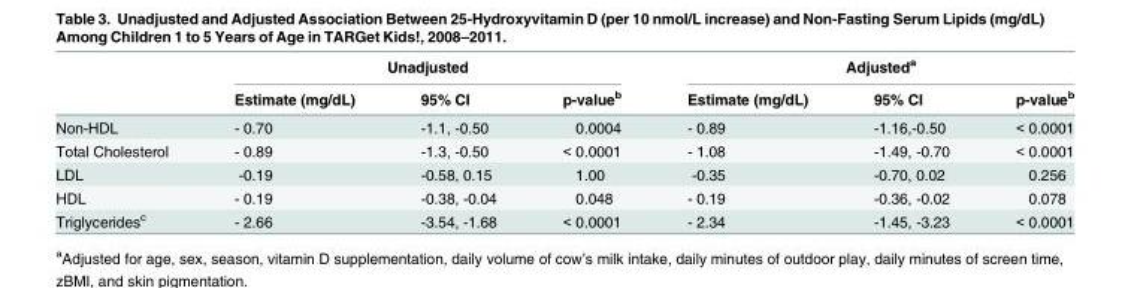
<table><thead><tr><td rowspan="2"></td><td colspan="3">Unadjusted</td><td colspan="3">Adjusted<sup>a</sup></td></tr><tr><td>Estimate (mg/dL)</td><td>95% CI</td><td>p-value<sup>b</sup></td><td>Estimate (mg/dL)</td><td>95% CI</td><td>p-value<sup>b</sup></td></tr></thead><tbody><tr><td>Non-HDL</td><td>- 0.70</td><td>-1.1, -0.50</td><td>0.0004</td><td>- 0.89</td><td>-1.16,-0.50</td><td>&lt; 0.0001</td></tr><tr><td>Total Cholesterol</td><td>- 0.89</td><td>-1.3, -0.50</td><td>&lt; 0.0001</td><td>- 1.08</td><td>-1.49, -0.70</td><td>&lt; 0.0001</td></tr><tr><td>LDL</td><td>-0.19</td><td>-0.58, 0.15</td><td>1.00</td><td>-0.35</td><td>-0.70, 0.02</td><td>0.256</td></tr><tr><td>HDL</td><td>- 0.19</td><td>-0.38, -0.04</td><td>0.048</td><td>- 0.19</td><td>-0.36, -0.02</td><td>0.078</td></tr><tr><td>Triglycerides<sup>c</sup></td><td>- 2.66</td><td>-3.54, -1.68</td><td>&lt; 0.0001</td><td>- 2.34</td><td>-1.45, -3.23</td><td>&lt; 0.0001</td></tr></tbody></table>